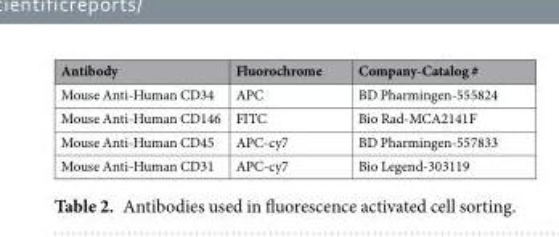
<table><thead><tr><td>Antibody</td><td>Fluorochrome</td><td>Company-Catalog #</td></tr></thead><tbody><tr><td>Mouse Anti-Human CD34</td><td>APC</td><td>BD Pharmingen-555824</td></tr><tr><td>Mouse Anti-Human CD146</td><td>FITC</td><td>Bio Rad-MCA2141F</td></tr><tr><td>Mouse Anti-Human CD45</td><td>APC-cy7</td><td>BD Pharmingen-557833</td></tr><tr><td>Mouse Anti-Human CD31</td><td>APC-cy7</td><td>Bio Legend-303119</td></tr></tbody></table>